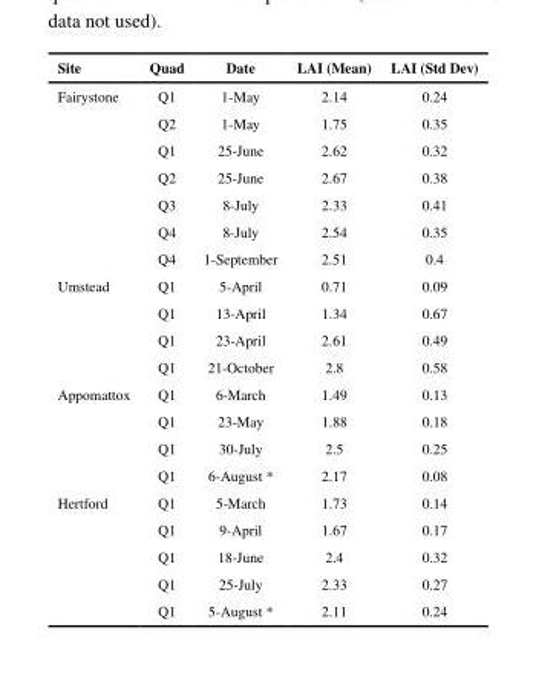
<table><thead><tr><td>Site</td><td>Quad</td><td>Date</td><td>LAI (Mean)</td><td>LAI (Std Dev)</td></tr></thead><tbody><tr><td rowspan="7">Fairystone</td><td>Q1</td><td>1-May</td><td>2.14</td><td>0.24</td></tr><tr><td>Q2</td><td>1-May</td><td>1.75</td><td>0.35</td></tr><tr><td>Q1</td><td>25-June</td><td>2.62</td><td>0.32</td></tr><tr><td>Q2</td><td>25-June</td><td>2.67</td><td>0.38</td></tr><tr><td>Q3</td><td>8-July</td><td>2.33</td><td>0.41</td></tr><tr><td>Q4</td><td>8-July</td><td>2.54</td><td>0.35</td></tr><tr><td>Q4</td><td>1-September</td><td>2.51</td><td>0.4</td></tr><tr><td rowspan="4">Umstead</td><td>Q1</td><td>5-April</td><td>0.71</td><td>0.09</td></tr><tr><td>Q1</td><td>13-April</td><td>1.34</td><td>0.67</td></tr><tr><td>Q1</td><td>23-April</td><td>2.61</td><td>0.49</td></tr><tr><td>Q1</td><td>21-October</td><td>2.8</td><td>0.58</td></tr><tr><td rowspan="4">Appomattox</td><td>Q1</td><td>6-March</td><td>1.49</td><td>0.13</td></tr><tr><td>Q1</td><td>23-May</td><td>1.88</td><td>0.18</td></tr><tr><td>Q1</td><td>30-July</td><td>2.5</td><td>0.25</td></tr><tr><td>Q1</td><td>6-August *</td><td>2.17</td><td>0.08</td></tr><tr><td rowspan="5">Hertford</td><td>Q1</td><td>5-March</td><td>1.73</td><td>0.14</td></tr><tr><td>Q1</td><td>9-April</td><td>1.67</td><td>0.17</td></tr><tr><td>Q1</td><td>18-June</td><td>2.4</td><td>0.32</td></tr><tr><td>Q1</td><td>25-July</td><td>2.33</td><td>0.27</td></tr><tr><td>Q1</td><td>5-August *</td><td>2.11</td><td>0.24</td></tr></tbody></table>